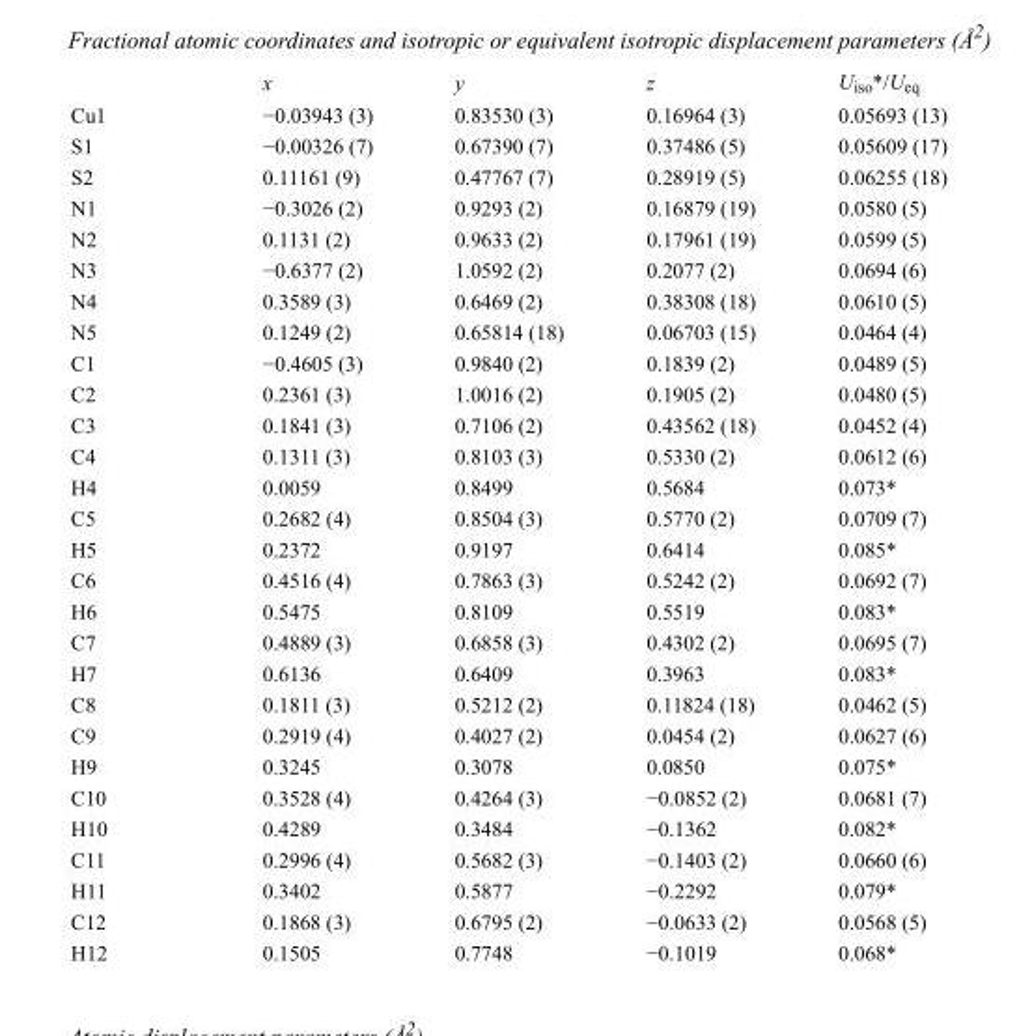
<table><thead><tr><td></td><td>x</td><td>y</td><td>z</td><td>U<sub>iso</sub>*/U<sub>eq</sub></td></tr></thead><tbody><tr><td>Cu1</td><td>−0.03943 (3)</td><td>0.83530 (3)</td><td>0.16964 (3)</td><td>0.05693 (13)</td></tr><tr><td>S1</td><td>−0.00326 (7)</td><td>0.67390 (7)</td><td>0.37486 (5)</td><td>0.05609 (17)</td></tr><tr><td>S2</td><td>0.11161 (9)</td><td>0.47767 (7)</td><td>0.28919 (5)</td><td>0.06255 (18)</td></tr><tr><td>N1</td><td>−0.3026 (2)</td><td>0.9293 (2)</td><td>0.16879 (19)</td><td>0.0580 (5)</td></tr><tr><td>N2</td><td>0.1131 (2)</td><td>0.9633 (2)</td><td>0.17961 (19)</td><td>0.0599 (5)</td></tr><tr><td>N3</td><td>−0.6377 (2)</td><td>1.0592 (2)</td><td>0.2077 (2)</td><td>0.0694 (6)</td></tr><tr><td>N4</td><td>0.3589 (3)</td><td>0.6469 (2)</td><td>0.38308 (18)</td><td>0.0610 (5)</td></tr><tr><td>N5</td><td>0.1249 (2)</td><td>0.65814 (18)</td><td>0.06703 (15)</td><td>0.0464 (4)</td></tr><tr><td>C1</td><td>−0.4605 (3)</td><td>0.9840 (2)</td><td>0.1839 (2)</td><td>0.0489 (5)</td></tr><tr><td>C2</td><td>0.2361 (3)</td><td>1.0016 (2)</td><td>0.1905 (2)</td><td>0.0480 (5)</td></tr><tr><td>C3</td><td>0.1841 (3)</td><td>0.7106 (2)</td><td>0.43562 (18)</td><td>0.0452 (4)</td></tr><tr><td>C4</td><td>0.1311 (3)</td><td>0.8103 (3)</td><td>0.5330 (2)</td><td>0.0612 (6)</td></tr><tr><td>H4</td><td>0.0059</td><td>0.8499</td><td>0.5684</td><td>0.073*</td></tr><tr><td>C5</td><td>0.2682 (4)</td><td>0.8504 (3)</td><td>0.5770 (2)</td><td>0.0709 (7)</td></tr><tr><td>H5</td><td>0.2372</td><td>0.9197</td><td>0.6414</td><td>0.085*</td></tr><tr><td>C6</td><td>0.4516 (4)</td><td>0.7863 (3)</td><td>0.5242 (2)</td><td>0.0692 (7)</td></tr><tr><td>H6</td><td>0.5475</td><td>0.8109</td><td>0.5519</td><td>0.083*</td></tr><tr><td>C7</td><td>0.4889 (3)</td><td>0.6858 (3)</td><td>0.4302 (2)</td><td>0.0695 (7)</td></tr><tr><td>H7</td><td>0.6136</td><td>0.6409</td><td>0.3963</td><td>0.083*</td></tr><tr><td>C8</td><td>0.1811 (3)</td><td>0.5212 (2)</td><td>0.11824 (18)</td><td>0.0462 (5)</td></tr><tr><td>C9</td><td>0.2919 (4)</td><td>0.4027 (2)</td><td>0.0454 (2)</td><td>0.0627 (6)</td></tr><tr><td>H9</td><td>0.3245</td><td>0.3078</td><td>0.0850</td><td>0.075*</td></tr><tr><td>C10</td><td>0.3528 (4)</td><td>0.4264 (3)</td><td>−0.0852 (2)</td><td>0.0681 (7)</td></tr><tr><td>H10</td><td>0.4289</td><td>0.3484</td><td>−0.1362</td><td>0.082*</td></tr><tr><td>C11</td><td>0.2996 (4)</td><td>0.5682 (3)</td><td>−0.1403 (2)</td><td>0.0660 (6)</td></tr><tr><td>H11</td><td>0.3402</td><td>0.5877</td><td>−0.2292</td><td>0.079*</td></tr><tr><td>C12</td><td>0.1868 (3)</td><td>0.6795 (2)</td><td>−0.0633 (2)</td><td>0.0568 (5)</td></tr><tr><td>H12</td><td>0.1505</td><td>0.7748</td><td>−0.1019</td><td>0.068*</td></tr></tbody></table>